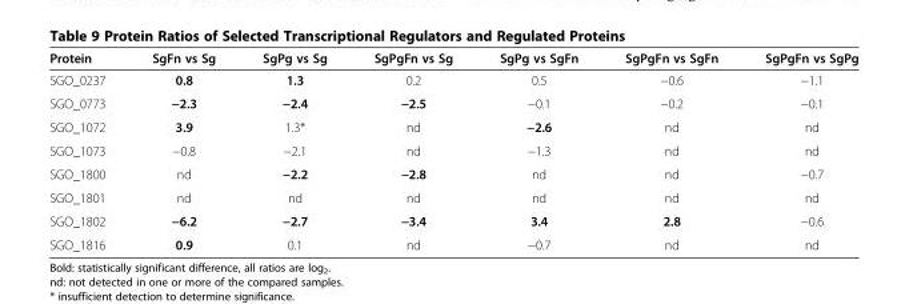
<table><thead><tr><td>Protein</td><td>SgFn vs Sg</td><td>SgPg vs Sg</td><td>SgPgFn vs Sg</td><td>SgPg vs SgFn</td><td>SgPgFn vs SgFn</td><td>SgPgFn vs SgPg</td></tr></thead><tbody><tr><td>SGO_0237</td><td>0.8</td><td>1.3</td><td>0.2</td><td>0.5</td><td>−0.6</td><td>−1.1</td></tr><tr><td>SGO_0773</td><td>−2.3</td><td>−2.4</td><td>−2.5</td><td>−0.1</td><td>−0.2</td><td>−0.1</td></tr><tr><td>SGO_1072</td><td>3.9</td><td>1.3*</td><td>nd</td><td>−2.6</td><td>nd</td><td>nd</td></tr><tr><td>SGO_1073</td><td>−0.8</td><td>−2.1</td><td>nd</td><td>−1.3</td><td>nd</td><td>nd</td></tr><tr><td>SGO_1800</td><td>nd</td><td>−2.2</td><td>−2.8</td><td>nd</td><td>nd</td><td>−0.7</td></tr><tr><td>SGO_1801</td><td>nd</td><td>nd</td><td>nd</td><td>nd</td><td>nd</td><td>nd</td></tr><tr><td>SGO_1802</td><td>−6.2</td><td>−2.7</td><td>−3.4</td><td>3.4</td><td>2.8</td><td>−0.6</td></tr><tr><td>SGO_1816</td><td>0.9</td><td>0.1</td><td>nd</td><td>−0.7</td><td>nd</td><td>nd</td></tr></tbody></table>